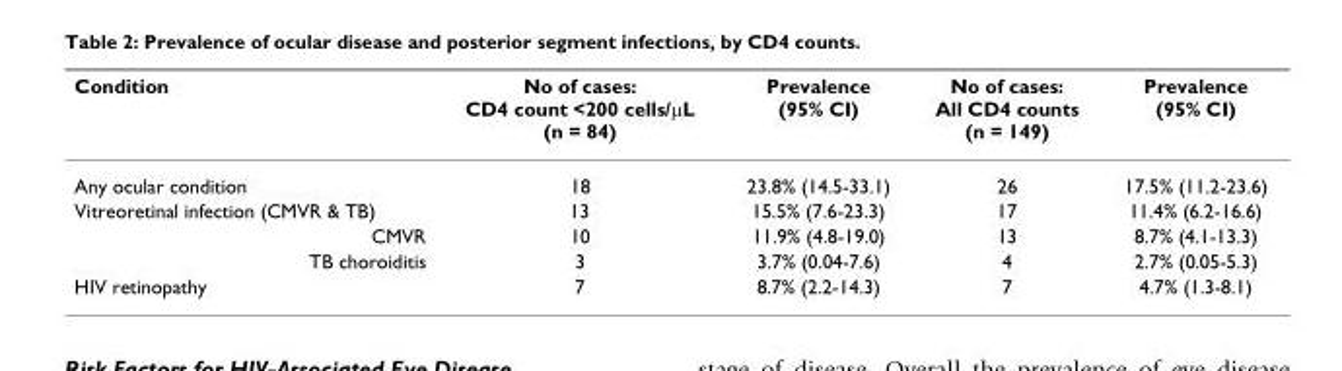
<table><thead><tr><td>Condition</td><td>No of cases: CD4 count &lt;200 cells/μL (n = 84)</td><td>Prevalence (95% CI)</td><td>No of cases: All CD4 counts (n = 149)</td><td>Prevalence (95% CI)</td></tr></thead><tbody><tr><td>Any ocular condition</td><td>18</td><td>23.8% (14.5-33.1)</td><td>26</td><td>17.5% (11.2-23.6)</td></tr><tr><td>Vitreoretinal infection (CMVR &amp; TB)</td><td>13</td><td>15.5% (7.6-23.3)</td><td>17</td><td>11.4% (6.2-16.6)</td></tr><tr><td>CMVR</td><td>10</td><td>11.9% (4.8-19.0)</td><td>13</td><td>8.7% (4.1-13.3)</td></tr><tr><td>TB choroiditis</td><td>3</td><td>3.7% (0.04-7.6)</td><td>4</td><td>2.7% (0.05-5.3)</td></tr><tr><td>HIV retinopathy</td><td>7</td><td>8.7% (2.2-14.3)</td><td>7</td><td>4.7% (1.3-8.1)</td></tr></tbody></table>